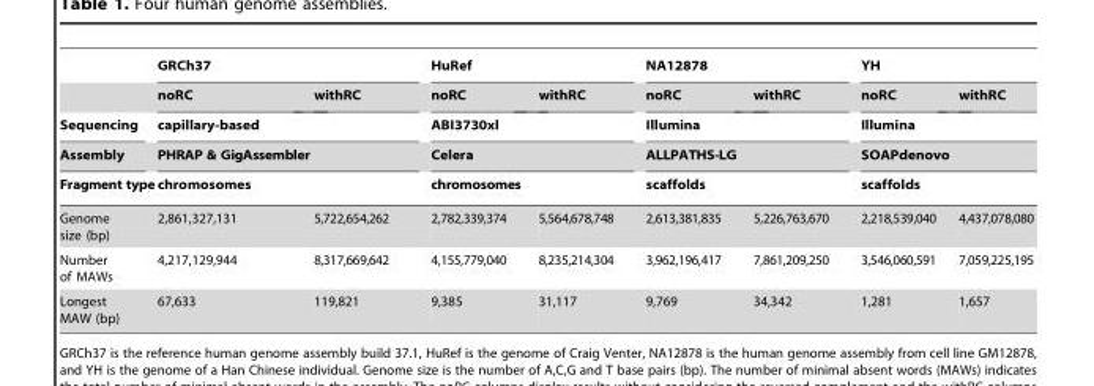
<table><thead><tr><td rowspan="5">Sequencing Assembly Fragment type</td><td colspan="2">GRCh37</td><td colspan="2">HuRef</td><td colspan="2">NA12878</td><td colspan="2">YH</td></tr><tr><td>noRC</td><td>withRC</td><td>noRC</td><td>withRC</td><td>noRC</td><td>withRC</td><td>noRC</td><td>withRC</td></tr><tr><td rowspan="3" colspan="2">capillary-based PHRAP &amp; GigAssembler chromosomes</td><td rowspan="3" colspan="2">ABI3730xl Celera chromosomes</td><td rowspan="3" colspan="2">Illumina ALLPATHS-LG scaffolds</td><td rowspan="3" colspan="2">Illumina SOAPdenovo scaffolds</td></tr><tr></tr><tr></tr></thead><tbody><tr><td>Genome size (bp)</td><td>2,861,327,131</td><td>5,722,654,262</td><td>2,782,339,374</td><td>5,564,678,748</td><td>2,613,381,835</td><td>5,226,763,670</td><td>2,218,539,040</td><td>4,437,078,080</td></tr><tr><td>Number of MAWs</td><td>4,217,129,944</td><td>8,317,669,642</td><td>4,155,779,040</td><td>8,235,214,304</td><td>3,962,196,417</td><td>7,861,209,250</td><td>3,546,060,591</td><td>7,059,225,195</td></tr><tr><td>Longest MAW (bp)</td><td>67,633</td><td>119,821</td><td>9,385</td><td>31,117</td><td>9,769</td><td>34,342</td><td>1,281</td><td>1,657</td></tr></tbody></table>